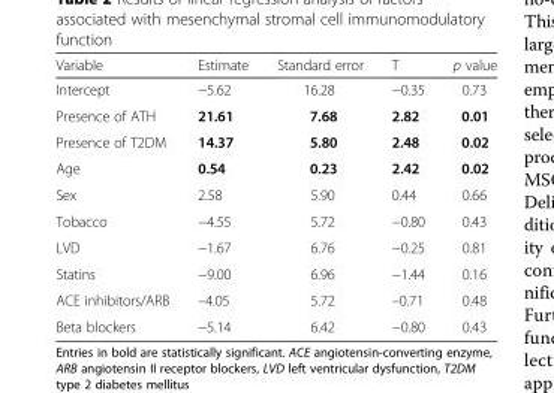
<table><thead><tr><td>Variable</td><td>Estimate</td><td>Standard error</td><td>T</td><td>p value</td></tr></thead><tbody><tr><td>Intercept</td><td>−5.62</td><td>16.28</td><td>−0.35</td><td>0.73</td></tr><tr><td>Presence of ATH</td><td>21.61</td><td>7.68</td><td>2.82</td><td>0.01</td></tr><tr><td>Presence of T2DM</td><td>14.37</td><td>5.80</td><td>2.48</td><td>0.02</td></tr><tr><td>Age</td><td>0.54</td><td>0.23</td><td>2.42</td><td>0.02</td></tr><tr><td>Sex</td><td>2.58</td><td>5.90</td><td>0.44</td><td>0.66</td></tr><tr><td>Tobacco</td><td>−4.55</td><td>5.72</td><td>−0.80</td><td>0.43</td></tr><tr><td>LVD</td><td>−1.67</td><td>6.76</td><td>−0.25</td><td>0.81</td></tr><tr><td>Statins</td><td>−9.00</td><td>6.96</td><td>−1.44</td><td>0.16</td></tr><tr><td>ACE inhibitors/ARB</td><td>–4.05</td><td>5.72</td><td>–0.71</td><td>0.48</td></tr><tr><td>Beta blockers</td><td>−5.14</td><td>6.42</td><td>−0.80</td><td>0.43</td></tr></tbody></table>